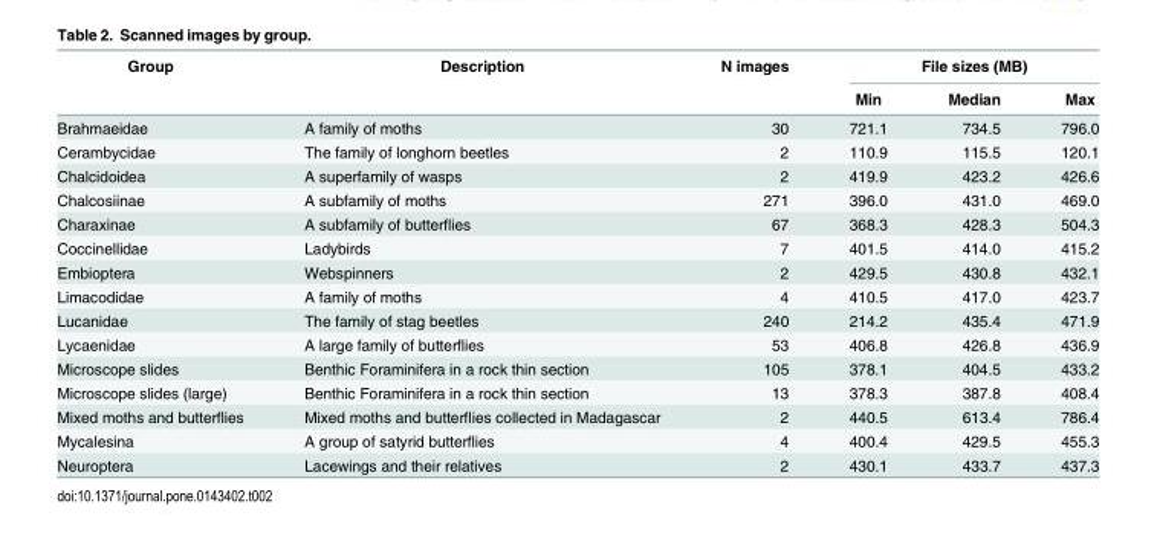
<table><thead><tr><td rowspan="2">Group</td><td rowspan="2">Description</td><td rowspan="2">N images</td><td colspan="3">File sizes (MB)</td></tr><tr><td>Min</td><td>Median</td><td>Max</td></tr></thead><tbody><tr><td>Brahmaeidae</td><td>A family of moths</td><td>30</td><td>721.1</td><td>734.5</td><td>796.0</td></tr><tr><td>Cerambycidae</td><td>The family of longhorn beetles</td><td>2</td><td>110.9</td><td>115.5</td><td>120.1</td></tr><tr><td>Chalcidoidea</td><td>A superfamily of wasps</td><td>2</td><td>419.9</td><td>423.2</td><td>426.6</td></tr><tr><td>Chalcosiinae</td><td>A subfamily of moths</td><td>271</td><td>396.0</td><td>431.0</td><td>469.0</td></tr><tr><td>Charaxinae</td><td>A subfamily of butterflies</td><td>67</td><td>368.3</td><td>428.3</td><td>504.3</td></tr><tr><td>Coccinellidae</td><td>Ladybirds</td><td>7</td><td>401.5</td><td>414.0</td><td>415.2</td></tr><tr><td>Embioptera</td><td>Webspinners</td><td>2</td><td>429.5</td><td>430.8</td><td>432.1</td></tr><tr><td>Limacodidae</td><td>A family of moths</td><td>4</td><td>410.5</td><td>417.0</td><td>423.7</td></tr><tr><td>Lucanidae</td><td>The family of stag beetles</td><td>240</td><td>214.2</td><td>435.4</td><td>471.9</td></tr><tr><td>Lycaenidae</td><td>A large family of butterflies</td><td>53</td><td>406.8</td><td>426.8</td><td>436.9</td></tr><tr><td>Microscope slides</td><td>Benthic Foraminifera in a rock thin section</td><td>105</td><td>378.1</td><td>404.5</td><td>433.2</td></tr><tr><td>Microscope slides (large)</td><td>Benthic Foraminifera in a rock thin section</td><td>13</td><td>378.3</td><td>387.8</td><td>408.4</td></tr><tr><td>Mixed moths and butterflies</td><td>Mixed moths and butterflies collected in Madagascar</td><td>2</td><td>440.5</td><td>613.4</td><td>786.4</td></tr><tr><td>Mycalesina</td><td>A group of satyrid butterflies</td><td>4</td><td>400.4</td><td>429.5</td><td>455.3</td></tr><tr><td>Neuroptera</td><td>Lacewings and their relatives</td><td>2</td><td>430.1</td><td>433.7</td><td>437.3</td></tr></tbody></table>